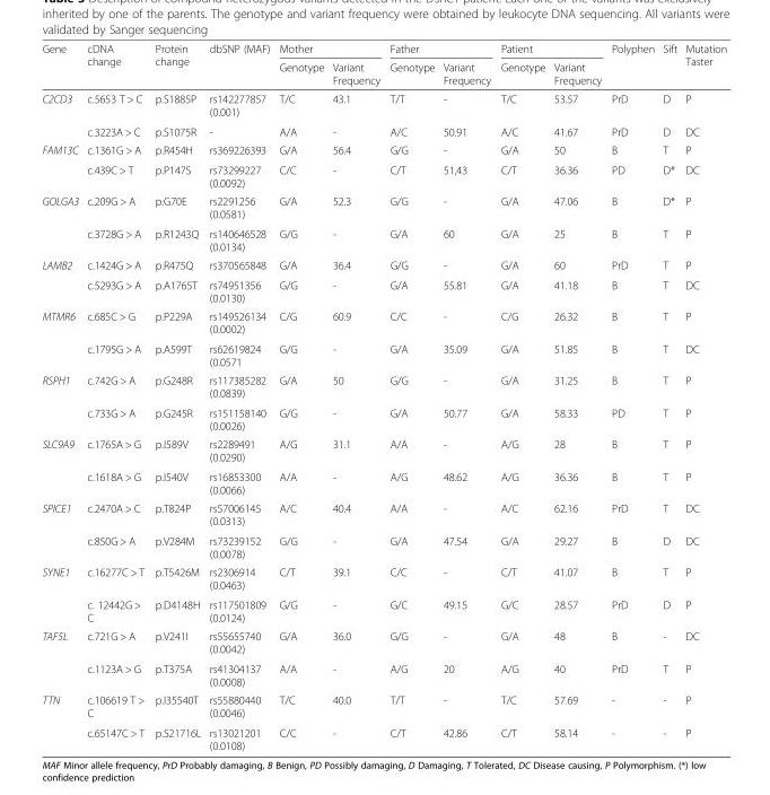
<table><thead><tr><td rowspan="2">Gene</td><td rowspan="2">cDNA change</td><td rowspan="2">Protein change</td><td rowspan="2">dbSNP (MAF)</td><td colspan="2">Mother</td><td colspan="2">Father</td><td colspan="2">Patient</td><td rowspan="2">Polyphen</td><td rowspan="2">Sift</td><td rowspan="2">Mutation Taster</td></tr><tr><td>Genotype</td><td>Variant Frequency</td><td>Genotype</td><td>Variant Frequency</td><td>Genotype</td><td>Variant Frequency</td></tr></thead><tbody><tr><td rowspan="2">C2CD3</td><td>c.5653 T &gt; C</td><td>p.S1885P</td><td>rs142277857 (0.001)</td><td>T/C</td><td>43.1</td><td>T/T</td><td>-</td><td>T/C</td><td>53.57</td><td>PrD</td><td>D</td><td>P</td></tr><tr><td>c.3223A &gt; C</td><td>p.S1075R</td><td>-</td><td>A/A</td><td>-</td><td>A/C</td><td>50.91</td><td>A/C</td><td>41.67</td><td>PrD</td><td>D</td><td>DC</td></tr><tr><td rowspan="2">FAM13C</td><td>c.1361G &gt; A</td><td>p.R454H</td><td>rs369226393</td><td>G/A</td><td>56.4</td><td>G/G</td><td>-</td><td>G/A</td><td>50</td><td>B</td><td>T</td><td>P</td></tr><tr><td>c.439C &gt; T</td><td>p.P147S</td><td>rs73299227 (0.0092)</td><td>C/C</td><td>-</td><td>C/T</td><td>51,43</td><td>C/T</td><td>36.36</td><td>PD</td><td>D*</td><td>DC</td></tr><tr><td rowspan="2">GOLGA3</td><td>c.209G &gt; A</td><td>p.G70E</td><td>rs2291256 (0.0581)</td><td>G/A</td><td>52.3</td><td>G/G</td><td>-</td><td>G/A</td><td>47.06</td><td>B</td><td>D*</td><td>P</td></tr><tr><td>c.3728G &gt; A</td><td>p.R1243Q</td><td>rs140646528 (0.0134)</td><td>G/G</td><td>-</td><td>G/A</td><td>60</td><td>G/A</td><td>25</td><td>B</td><td>T</td><td>P</td></tr><tr><td rowspan="2">LAMB2</td><td>c.1424G &gt; A</td><td>p.R475Q</td><td>rs370565848</td><td>G/A</td><td>36.4</td><td>G/G</td><td>-</td><td>G/A</td><td>60</td><td>PrD</td><td>T</td><td>P</td></tr><tr><td>c.5293G &gt; A</td><td>p.A1765T</td><td>rs74951356 (0.0130)</td><td>G/G</td><td>-</td><td>G/A</td><td>55.81</td><td>G/A</td><td>41.18</td><td>B</td><td>T</td><td>DC</td></tr><tr><td rowspan="2">MTMR6</td><td>c.685C &gt; G</td><td>p.P229A</td><td>rs149526134 (0.0002)</td><td>C/G</td><td>60.9</td><td>C/C</td><td>-</td><td>C/G</td><td>26.32</td><td>B</td><td>T</td><td>P</td></tr><tr><td>c.1795G &gt; A</td><td>p.A599T</td><td>rs62619824 (0.0571</td><td>G/G</td><td>-</td><td>G/A</td><td>35.09</td><td>G/A</td><td>51.85</td><td>B</td><td>T</td><td>DC</td></tr><tr><td rowspan="2">RSPH1</td><td>c.742G &gt; A</td><td>p.G248R</td><td>rs117385282 (0.0839)</td><td>G/A</td><td>50</td><td>G/G</td><td>-</td><td>G/A</td><td>31.25</td><td>B</td><td>T</td><td>P</td></tr><tr><td>c.733G &gt; A</td><td>p.G245R</td><td>rs151158140 (0.0026)</td><td>G/G</td><td>-</td><td>G/A</td><td>50.77</td><td>G/A</td><td>58.33</td><td>PD</td><td>T</td><td>P</td></tr><tr><td rowspan="2">SLC9A9</td><td>c.1765A &gt; G</td><td>p.I589V</td><td>rs2289491 (0.0290)</td><td>A/G</td><td>31.1</td><td>A/A</td><td>-</td><td>A/G</td><td>28</td><td>B</td><td>T</td><td>P</td></tr><tr><td>c.1618A &gt; G</td><td>p.I540V</td><td>rs16853300 (0.0066)</td><td>A/A</td><td>-</td><td>A/G</td><td>48.62</td><td>A/G</td><td>36.36</td><td>B</td><td>T</td><td>P</td></tr><tr><td rowspan="2">SPICE1</td><td>c.2470A &gt; C</td><td>p.T824P</td><td>rs57006145 (0.0313)</td><td>A/C</td><td>40.4</td><td>A/A</td><td>-</td><td>A/C</td><td>62.16</td><td>PrD</td><td>T</td><td>DC</td></tr><tr><td>c.850G &gt; A</td><td>p.V284M</td><td>rs73239152 (0.0078)</td><td>G/G</td><td>-</td><td>G/A</td><td>47.54</td><td>G/A</td><td>29.27</td><td>B</td><td>D</td><td>DC</td></tr><tr><td rowspan="2">SYNE1</td><td>c.16277C &gt; T</td><td>p.T5426M</td><td>rs2306914 (0.0463)</td><td>C/T</td><td>39.1</td><td>C/C</td><td>-</td><td>C/T</td><td>41.07</td><td>B</td><td>T</td><td>P</td></tr><tr><td>c. 12442G &gt; C</td><td>p.D4148H</td><td>rs117501809 (0.0124)</td><td>G/G</td><td>-</td><td>G/C</td><td>49.15</td><td>G/C</td><td>28.57</td><td>PrD</td><td>D</td><td>P</td></tr><tr><td rowspan="2">TAF5L</td><td>c.721G &gt; A</td><td>p.V241I</td><td>rs55655740 (0.0042)</td><td>G/A</td><td>36.0</td><td>G/G</td><td>-</td><td>G/A</td><td>48</td><td>B</td><td>-</td><td>DC</td></tr><tr><td>c.1123A &gt; G</td><td>p.T375A</td><td>rs41304137 (0.0008)</td><td>A/A</td><td>-</td><td>A/G</td><td>20</td><td>A/G</td><td>40</td><td>PrD</td><td>T</td><td>P</td></tr><tr><td rowspan="2">TTN</td><td>c.106619 T &gt; C</td><td>p.I35540T</td><td>rs55880440 (0.0046)</td><td>T/C</td><td>40.0</td><td>T/T</td><td>-</td><td>T/C</td><td>57.69</td><td>-</td><td>-</td><td>P</td></tr><tr><td>c.65147C &gt; T</td><td>p.S21716L</td><td>rs13021201 (0.0108)</td><td>C/C</td><td>-</td><td>C/T</td><td>42.86</td><td>C/T</td><td>58.14</td><td>-</td><td>-</td><td>P</td></tr></tbody></table>